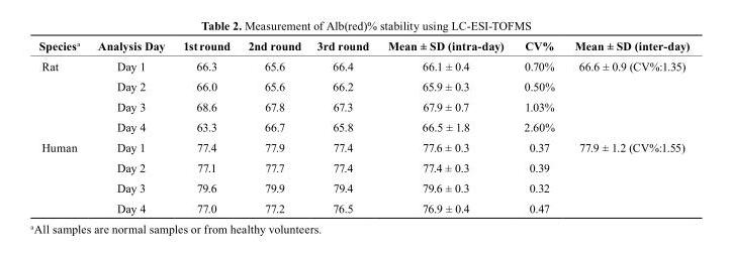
<table><thead><tr><td>species<sup>a</sup></td><td>Analysis day</td><td>1st round</td><td>2nd round</td><td>3rd round</td><td>Mean ± sd (intra-day)</td><td>cV%</td><td>Mean ± sd (inter-day)</td></tr></thead><tbody><tr><td rowspan="4">Rat</td><td>Day 1</td><td>66.3</td><td>65.6</td><td>66.4</td><td>66.1 ± 0.4</td><td>0.70%</td><td rowspan="4">66.6 ± 0.9 (CV%:1.35)</td></tr><tr><td>Day 2</td><td>66.0</td><td>65.6</td><td>66.2</td><td>65.9 ± 0.3</td><td>0.50%</td></tr><tr><td>Day 3</td><td>68.6</td><td>67.8</td><td>67.3</td><td>67.9 ± 0.7</td><td>1.03%</td></tr><tr><td>Day 4</td><td>63.3</td><td>66.7</td><td>65.8</td><td>66.5 ± 1.8</td><td>2.60%</td></tr><tr><td rowspan="4">Human</td><td>Day 1</td><td>77.4</td><td>77.9</td><td>77.4</td><td>77.6 ± 0.3</td><td>0.37</td><td rowspan="4">77.9 ± 1.2 (CV%:1.55)</td></tr><tr><td>Day 2</td><td>77.1</td><td>77.7</td><td>77.4</td><td>77.4 ± 0.3</td><td>0.39</td></tr><tr><td>Day 3</td><td>79.6</td><td>79.9</td><td>79.4</td><td>79.6 ± 0.3</td><td>0.32</td></tr><tr><td>Day 4</td><td>77.0</td><td>77.2</td><td>76.5</td><td>76.9 ± 0.4</td><td>0.47</td></tr></tbody></table>